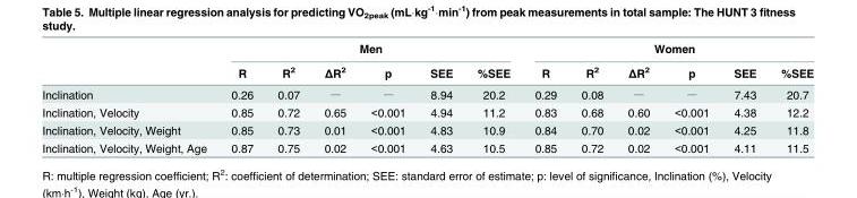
<table><thead><tr><td rowspan="2"></td><td colspan="6">Men</td><td colspan="6">Women</td></tr><tr><td>R</td><td>R<sup>2</sup></td><td>ΔR<sup>2</sup></td><td>p</td><td>SEE</td><td>%SEE</td><td>R</td><td>R<sup>2</sup></td><td>ΔR<sup>2</sup></td><td>p</td><td>SEE</td><td>%SEE</td></tr></thead><tbody><tr><td>Inclination</td><td>0.26</td><td>0.07</td><td><sup>__</sup></td><td><sup>__</sup></td><td>8.94</td><td>20.2</td><td>0.29</td><td>0.08</td><td><sup>__</sup></td><td><sup>__</sup></td><td>7.43</td><td>20.7</td></tr><tr><td>Inclination, Velocity</td><td>0.85</td><td>0.72</td><td>0.65</td><td>&lt;0.001</td><td>4.94</td><td>11.2</td><td>0.83</td><td>0.68</td><td>0.60</td><td>&lt;0.001</td><td>4.38</td><td>12.2</td></tr><tr><td>Inclination, Velocity, Weight</td><td>0.85</td><td>0.73</td><td>0.01</td><td>&lt;0.001</td><td>4.83</td><td>10.9</td><td>0.84</td><td>0.70</td><td>0.02</td><td>&lt;0.001</td><td>4.25</td><td>11.8</td></tr><tr><td>Inclination, Velocity, Weight, Age</td><td>0.87</td><td>0.75</td><td>0.02</td><td>&lt;0.001</td><td>4.63</td><td>10.5</td><td>0.85</td><td>0.72</td><td>0.02</td><td>&lt;0.001</td><td>4.11</td><td>11.5</td></tr></tbody></table>